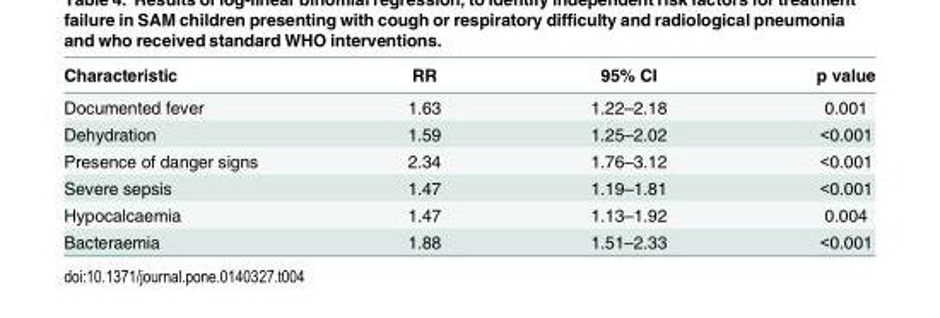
<table><thead><tr><td>Characteristic</td><td>RR</td><td>95% CI</td><td>p value</td></tr></thead><tbody><tr><td>Documented fever</td><td>1.63</td><td>1.22–2.18</td><td>0.001</td></tr><tr><td>Dehydration</td><td>1.59</td><td>1.25–2.02</td><td>&lt;0.001</td></tr><tr><td>Presence of danger signs</td><td>2.34</td><td>1.76–3.12</td><td>&lt;0.001</td></tr><tr><td>Severe sepsis</td><td>1.47</td><td>1.19–1.81</td><td>&lt;0.001</td></tr><tr><td>Hypocalcaemia</td><td>1.47</td><td>1.13–1.92</td><td>0.004</td></tr><tr><td>Bacteraemia</td><td>1.88</td><td>1.51–2.33</td><td>&lt;0.001</td></tr></tbody></table>